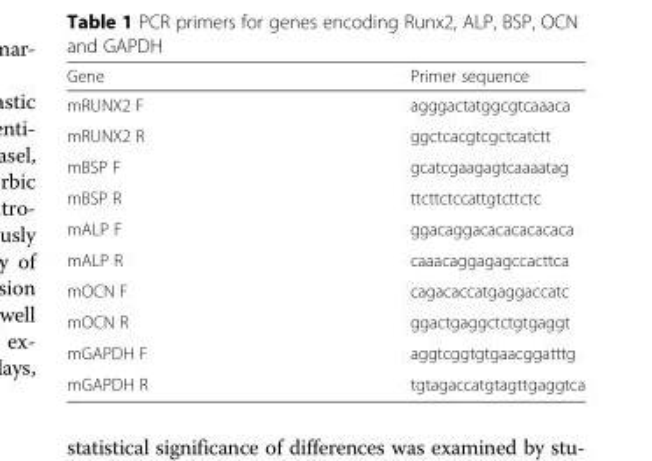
<table><thead><tr><td>Gene</td><td>Primer sequence</td></tr></thead><tbody><tr><td>mRUNX2 F</td><td>agggactatggcgtcaaaca</td></tr><tr><td>mRUNX2 R</td><td>ggctcacgtcgctcatctt</td></tr><tr><td>mBSP F</td><td>gcatcgaagagtcaaaatag</td></tr><tr><td>mBSP R</td><td>ttcttctccattgtcttctc</td></tr><tr><td>mALP F</td><td>ggacaggacacacacacaca</td></tr><tr><td>mALP R</td><td>caaacaggagagccacttca</td></tr><tr><td>mOCN F</td><td>cagacaccatgaggaccatc</td></tr><tr><td>mOCN R</td><td>ggactgaggctctgtgaggt</td></tr><tr><td>mGAPDH F</td><td>aggtcggtgtgaacggatttg</td></tr><tr><td>mGAPDH R</td><td>tgtagaccatgtagttgaggtca</td></tr></tbody></table>